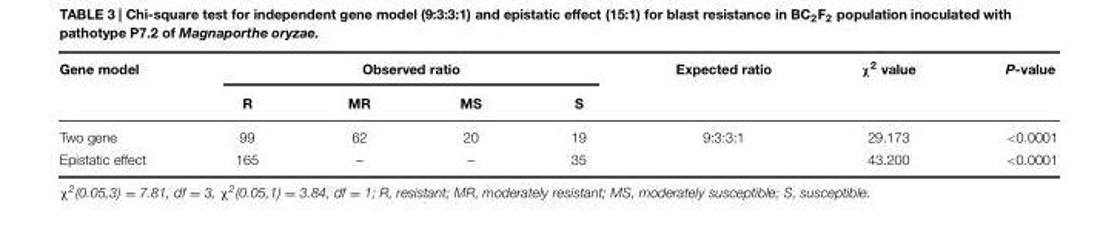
<table><thead><tr><td rowspan="2">Gene model</td><td colspan="4">Observed ratio</td><td rowspan="2">Expected ratio</td><td rowspan="2">χ<sup>2</sup> value</td><td rowspan="2">P-value</td></tr><tr><td>R</td><td>MR</td><td>MS</td><td>S</td></tr></thead><tbody><tr><td>Two gene</td><td>99</td><td>62</td><td>20</td><td>19</td><td>9:3:3:1</td><td>29.173</td><td>&lt;0.0001</td></tr><tr><td>Epistatic effect</td><td>165</td><td>–</td><td>–</td><td>35</td><td></td><td>43.200</td><td>&lt;0.0001</td></tr></tbody></table>